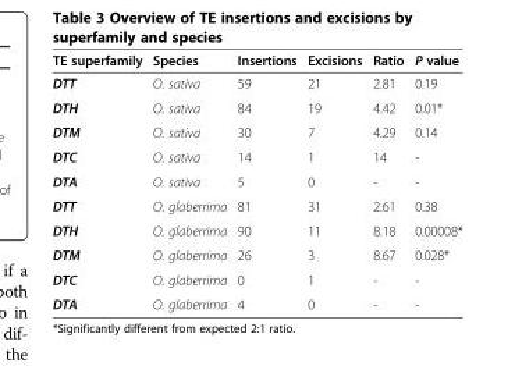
<table><thead><tr><td>TE superfamily</td><td>Species</td><td>Insertions</td><td>Excisions</td><td>Ratio</td><td>P value</td></tr></thead><tbody><tr><td>DTT</td><td>O. sativa</td><td>59</td><td>21</td><td>2.81</td><td>0.19</td></tr><tr><td>DTH</td><td>O. sativa</td><td>84</td><td>19</td><td>4.42</td><td>0.01*</td></tr><tr><td>DTM</td><td>O. sativa</td><td>30</td><td>7</td><td>4.29</td><td>0.14</td></tr><tr><td>DTC</td><td>O. sativa</td><td>14</td><td>1</td><td>14</td><td>-</td></tr><tr><td>DTA</td><td>O. sativa</td><td>5</td><td>0</td><td>-</td><td>-</td></tr><tr><td>DTT</td><td>O. glaberrima</td><td>81</td><td>31</td><td>2.61</td><td>0.38</td></tr><tr><td>DTH</td><td>O. glaberrima</td><td>90</td><td>11</td><td>8.18</td><td>0.00008*</td></tr><tr><td>DTM</td><td>O. glaberrima</td><td>26</td><td>3</td><td>8.67</td><td>0.028*</td></tr><tr><td>DTC</td><td>O. glaberrima</td><td>0</td><td>1</td><td>-</td><td>-</td></tr><tr><td>DTA</td><td>O. glaberrima</td><td>4</td><td>0</td><td>-</td><td>-</td></tr></tbody></table>